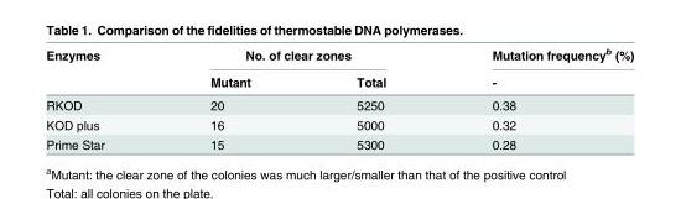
<table><thead><tr><td rowspan="2">Enzymes</td><td colspan="2">No. of clear zones</td><td rowspan="2">Mutation frequency<sup>b</sup> (%) -</td></tr><tr><td>Mutant</td><td>Total</td></tr></thead><tbody><tr><td>RKOD</td><td>20</td><td>5250</td><td>0.38</td></tr><tr><td>KOD plus</td><td>16</td><td>5000</td><td>0.32</td></tr><tr><td>Prime Star</td><td>15</td><td>5300</td><td>0.28</td></tr></tbody></table>